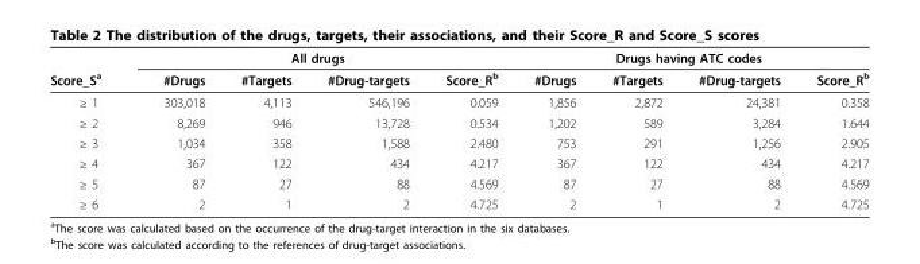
<table><thead><tr><td rowspan="2">Score_S<sup>a</sup></td><td colspan="4">All drugs</td><td colspan="4">Drugs having ATC codes</td></tr><tr><td>#Drugs</td><td>#Targets</td><td>#Drug-targets</td><td>Score_R<sup>b</sup></td><td>#Drugs</td><td>#Targets</td><td>#Drug-targets</td><td>Score_R<sup>b</sup></td></tr></thead><tbody><tr><td>≥ 1</td><td>303,018</td><td>4,113</td><td>546,196</td><td>0.059</td><td>1,856</td><td>2,872</td><td>24,381</td><td>0.358</td></tr><tr><td>≥ 2</td><td>8,269</td><td>946</td><td>13,728</td><td>0.534</td><td>1,202</td><td>589</td><td>3,284</td><td>1.644</td></tr><tr><td>≥ 3</td><td>1,034</td><td>358</td><td>1,588</td><td>2.480</td><td>753</td><td>291</td><td>1,256</td><td>2.905</td></tr><tr><td>≥ 4</td><td>367</td><td>122</td><td>434</td><td>4.217</td><td>367</td><td>122</td><td>434</td><td>4.217</td></tr><tr><td>≥ 5</td><td>87</td><td>27</td><td>88</td><td>4.569</td><td>87</td><td>27</td><td>88</td><td>4.569</td></tr><tr><td>≥ 6</td><td>2</td><td>1</td><td>2</td><td>4.725</td><td>2</td><td>1</td><td>2</td><td>4.725</td></tr></tbody></table>